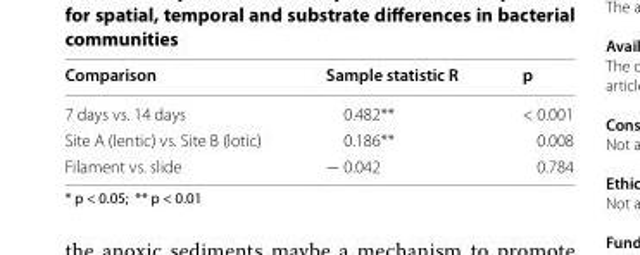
<table><thead><tr><td>Comparison</td><td>Sample statistic R</td><td>p</td></tr></thead><tbody><tr><td>7 days vs. 14 days</td><td>0.482**</td><td>&lt; 0.001</td></tr><tr><td>Site A (lentic) vs. Site B (lotic)</td><td>0.186**</td><td>0.008</td></tr><tr><td>Filament vs. slide</td><td>− 0.042</td><td>0.784</td></tr></tbody></table>